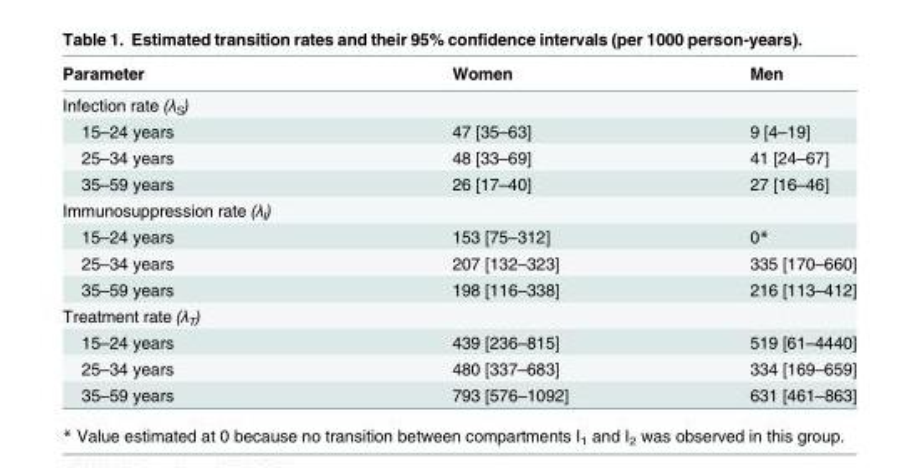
<table><thead><tr><td>Parameter</td><td>Women</td><td>Men</td></tr></thead><tbody><tr><td colspan="3">Infection rate (λ<sub>S</sub>)</td></tr><tr><td>15–24 years</td><td>47 [35–63]</td><td>9 [4–19]</td></tr><tr><td>25–34 years</td><td>48 [33–69]</td><td>41 [24–67]</td></tr><tr><td>35–59 years</td><td>26 [17–40]</td><td>27 [16–46]</td></tr><tr><td colspan="3">Immunosuppression rate (λ<sub>I</sub>)</td></tr><tr><td>15–24 years</td><td>153 [75–312]</td><td>0*</td></tr><tr><td>25–34 years</td><td>207 [132–323]</td><td>335 [170–660]</td></tr><tr><td>35–59 years</td><td>198 [116–338]</td><td>216 [113–412]</td></tr><tr><td colspan="3">Treatment rate (λ<sub>T</sub>)</td></tr><tr><td>15–24 years</td><td>439 [236–815]</td><td>519 [61–4440]</td></tr><tr><td>25–34 years</td><td>480 [337–683]</td><td>334 [169–659]</td></tr><tr><td>35–59 years</td><td>793 [576–1092]</td><td>631 [461–863]</td></tr></tbody></table>